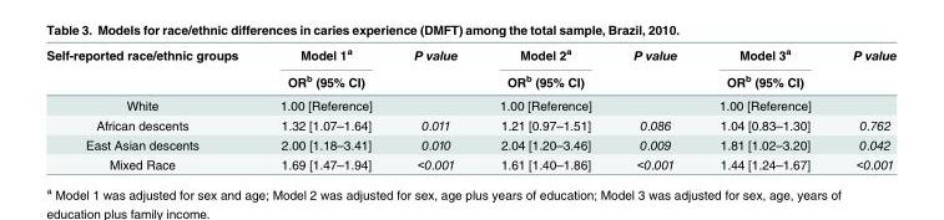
<table><thead><tr><td rowspan="2">Self-reported race/ethnic groups</td><td rowspan="2">Model 1<sup>a</sup> OR<sup>b</sup> (95% CI)</td><td rowspan="2">P value</td><td rowspan="2">Model 2<sup>a</sup> OR<sup>b</sup> (95% CI)</td><td rowspan="2">P value</td><td rowspan="2">Model 3<sup>a</sup> OR<sup>b</sup> (95% CI)</td><td rowspan="2">P value</td></tr><tr></tr></thead><tbody><tr><td>White</td><td>1.00 [Reference]</td><td></td><td>1.00 [Reference]</td><td></td><td>1.00 [Reference]</td><td></td></tr><tr><td>African descents</td><td>1.32 [1.07–1.64]</td><td>0.011</td><td>1.21 [0.97–1.51]</td><td>0.086</td><td>1.04 [0.83–1.30]</td><td>0.762</td></tr><tr><td>East Asian descents</td><td>2.00 [1.18–3.41]</td><td>0.010</td><td>2.04 [1.20–3.46]</td><td>0.009</td><td>1.81 [1.02–3.20]</td><td>0.042</td></tr><tr><td>Mixed Race</td><td>1.69 [1.47–1.94]</td><td>&lt;0.001</td><td>1.61 [1.40–1.86]</td><td>&lt;0.001</td><td>1.44 [1.24–1.67]</td><td>&lt;0.001</td></tr></tbody></table>